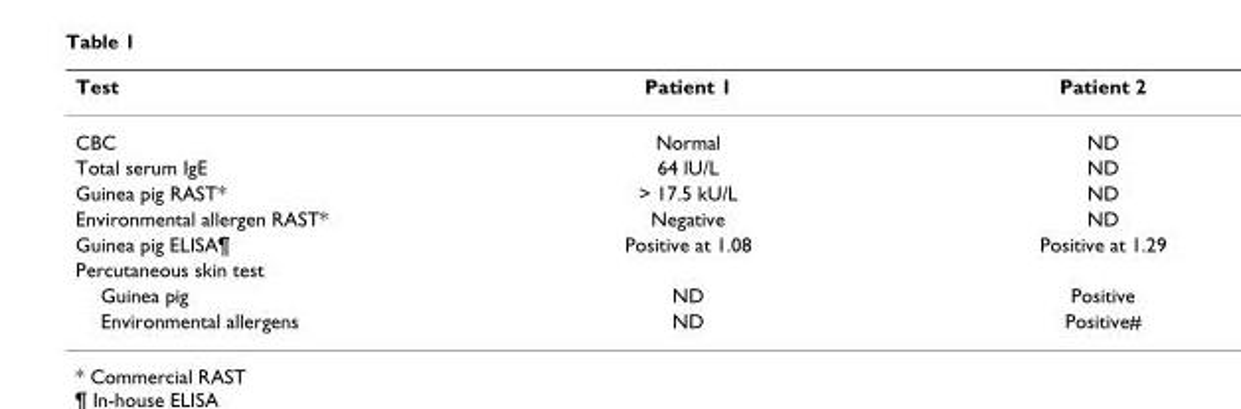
<table><thead><tr><td>Test</td><td>Patient 1</td><td>Patient 2</td></tr></thead><tbody><tr><td>CBC</td><td>Normal</td><td>ND</td></tr><tr><td>Total serum IgE</td><td>64 lU/L</td><td>ND</td></tr><tr><td>Guinea pig RAST*</td><td>&gt; 17.5 kU/L</td><td>ND</td></tr><tr><td>Environmental allergen RAST*</td><td>Negative</td><td>ND</td></tr><tr><td>Guinea pig ELISA¶</td><td>Positive at 1.08</td><td>Positive at 1.29</td></tr><tr><td colspan="3">Percutaneous skin test</td></tr><tr><td>Guinea pig</td><td>ND</td><td>Positive</td></tr><tr><td>Environmental allergens</td><td>ND</td><td>Positive#</td></tr></tbody></table>